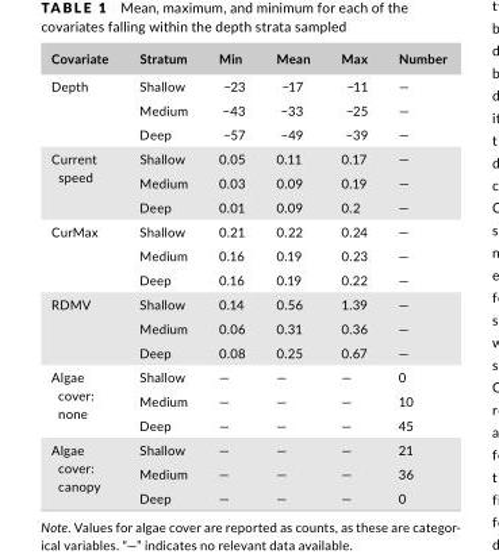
<table><thead><tr><td>Covariate</td><td>Stratum</td><td>Min</td><td>Mean</td><td>Max</td><td>Number</td></tr></thead><tbody><tr><td rowspan="3">Depth</td><td>Shallow</td><td>−23</td><td>−17</td><td>−11</td><td>—</td></tr><tr><td>Medium</td><td>−43</td><td>−33</td><td>−25</td><td>—</td></tr><tr><td>Deep</td><td>−57</td><td>−49</td><td>−39</td><td>—</td></tr><tr><td rowspan="3">Current speed</td><td>Shallow</td><td>0.05</td><td>0.11</td><td>0.17</td><td>—</td></tr><tr><td>Medium</td><td>0.03</td><td>0.09</td><td>0.19</td><td>—</td></tr><tr><td>Deep</td><td>0.01</td><td>0.09</td><td>0.2</td><td>—</td></tr><tr><td rowspan="3">CurMax</td><td>Shallow</td><td>0.21</td><td>0.22</td><td>0.24</td><td>—</td></tr><tr><td>Medium</td><td>0.16</td><td>0.19</td><td>0.23</td><td>—</td></tr><tr><td>Deep</td><td>0.16</td><td>0.19</td><td>0.22</td><td>—</td></tr><tr><td rowspan="3">RDMV</td><td>Shallow</td><td>0.14</td><td>0.56</td><td>1.39</td><td>—</td></tr><tr><td>Medium</td><td>0.06</td><td>0.31</td><td>0.36</td><td>—</td></tr><tr><td>Deep</td><td>0.08</td><td>0.25</td><td>0.67</td><td>—</td></tr><tr><td rowspan="3">Algae cover: none</td><td>Shallow</td><td>—</td><td>—</td><td>—</td><td>0</td></tr><tr><td>Medium</td><td>—</td><td>—</td><td>—</td><td>10</td></tr><tr><td>Deep</td><td>—</td><td>—</td><td>—</td><td>45</td></tr><tr><td rowspan="3">Algae cover: canopy</td><td>Shallow</td><td>—</td><td>—</td><td>—</td><td>21</td></tr><tr><td>Medium</td><td>—</td><td>—</td><td>—</td><td>36</td></tr><tr><td>Deep</td><td>—</td><td>—</td><td>—</td><td>0</td></tr></tbody></table>